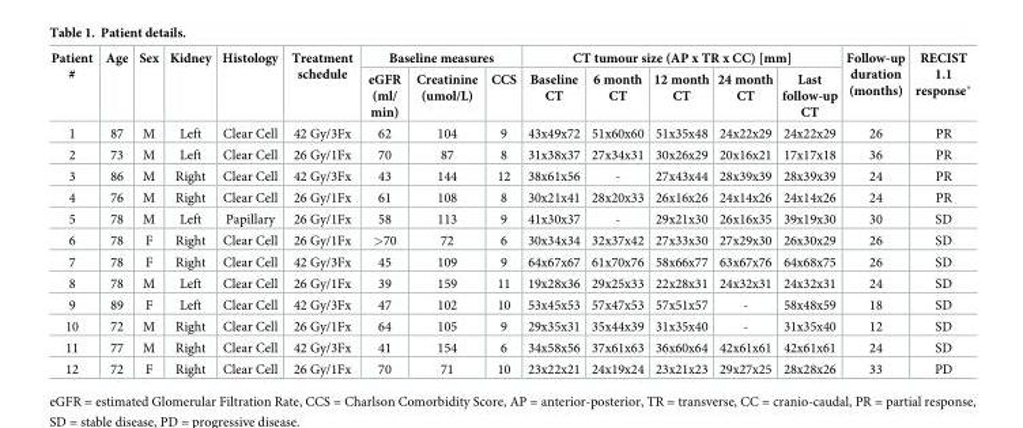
<table><thead><tr><td rowspan="2">Patient #</td><td rowspan="2">Age</td><td rowspan="2">Sex</td><td rowspan="2">Kidney</td><td rowspan="2">Histology</td><td rowspan="2">Treatment schedule</td><td colspan="3">Baseline measures</td><td colspan="5">CT tumour size (AP x TR x CC) [mm]</td><td rowspan="2">Follow-up duration (months)</td><td rowspan="2">RECIST 1.1 response*</td></tr><tr><td>eGFR (ml/ min)</td><td>Creatinine (umol/L)</td><td>CCS</td><td>Baseline CT</td><td>6 month CT</td><td>12 month CT</td><td>24 month CT</td><td>Last follow-up CT</td></tr></thead><tbody><tr><td>1</td><td>87</td><td>M</td><td>Left</td><td>Clear Cell</td><td>42 Gy/3Fx</td><td>62</td><td>104</td><td>9</td><td>43x49x72</td><td>51x60x60</td><td>51x35x48</td><td>24x22x29</td><td>24x22x29</td><td>26</td><td>PR</td></tr><tr><td>2</td><td>73</td><td>M</td><td>Left</td><td>Clear Cell</td><td>26 Gy/1Fx</td><td>70</td><td>87</td><td>8</td><td>31x38x37</td><td>27x34x31</td><td>30x26x29</td><td>20x16x21</td><td>17x17x18</td><td>36</td><td>PR</td></tr><tr><td>3</td><td>86</td><td>M</td><td>Right</td><td>Clear Cell</td><td>42 Gy/3Fx</td><td>43</td><td>144</td><td>12</td><td>38x61x56</td><td>-</td><td>27x43x44</td><td>28x39x39</td><td>28x39x39</td><td>24</td><td>PR</td></tr><tr><td>4</td><td>76</td><td>M</td><td>Right</td><td>Clear Cell</td><td>26 Gy/1Fx</td><td>61</td><td>108</td><td>8</td><td>30x21x41</td><td>28x20x33</td><td>26x16x26</td><td>24x14x26</td><td>24x14x26</td><td>24</td><td>PR</td></tr><tr><td>5</td><td>78</td><td>M</td><td>Left</td><td>Papillary</td><td>26 Gy/1Fx</td><td>58</td><td>113</td><td>9</td><td>41x30x37</td><td>-</td><td>29x21x30</td><td>26x16x35</td><td>39x19x30</td><td>30</td><td>SD</td></tr><tr><td>6</td><td>78</td><td>F</td><td>Right</td><td>Clear Cell</td><td>26 Gy/1Fx</td><td>&gt;70</td><td>72</td><td>6</td><td>30x34x34</td><td>32x37x42</td><td>27x33x30</td><td>27x29x30</td><td>26x30x29</td><td>26</td><td>SD</td></tr><tr><td>7</td><td>78</td><td>F</td><td>Right</td><td>Clear Cell</td><td>42 Gy/3Fx</td><td>45</td><td>109</td><td>9</td><td>64x67x67</td><td>61x70x76</td><td>58x66x77</td><td>63x67x76</td><td>64x68x75</td><td>26</td><td>SD</td></tr><tr><td>8</td><td>78</td><td>M</td><td>Left</td><td>Clear Cell</td><td>26 Gy/1Fx</td><td>39</td><td>159</td><td>11</td><td>19x28x36</td><td>29x25x33</td><td>22x28x31</td><td>24x32x31</td><td>24x32x31</td><td>24</td><td>SD</td></tr><tr><td>9</td><td>89</td><td>F</td><td>Left</td><td>Clear Cell</td><td>42 Gy/3Fx</td><td>47</td><td>102</td><td>10</td><td>53x45x53</td><td>57x47x53</td><td>57x51x57</td><td>-</td><td>58x48x59</td><td>18</td><td>SD</td></tr><tr><td>10</td><td>72</td><td>M</td><td>Right</td><td>Clear Cell</td><td>26 Gy/1Fx</td><td>64</td><td>105</td><td>9</td><td>29x35x31</td><td>35x44x39</td><td>31x35x40</td><td>-</td><td>31x35x40</td><td>12</td><td>SD</td></tr><tr><td>11</td><td>77</td><td>M</td><td>Right</td><td>Clear Cell</td><td>42 Gy/3Fx</td><td>41</td><td>154</td><td>6</td><td>34x58x56</td><td>37x61x63</td><td>36x60x64</td><td>42x61x61</td><td>42x61x61</td><td>24</td><td>SD</td></tr><tr><td>12</td><td>72</td><td>F</td><td>Right</td><td>Clear Cell</td><td>26 Gy/1Fx</td><td>70</td><td>71</td><td>10</td><td>23x22x21</td><td>24x19x24</td><td>23x21x23</td><td>29x27x25</td><td>28x28x26</td><td>33</td><td>PD</td></tr></tbody></table>